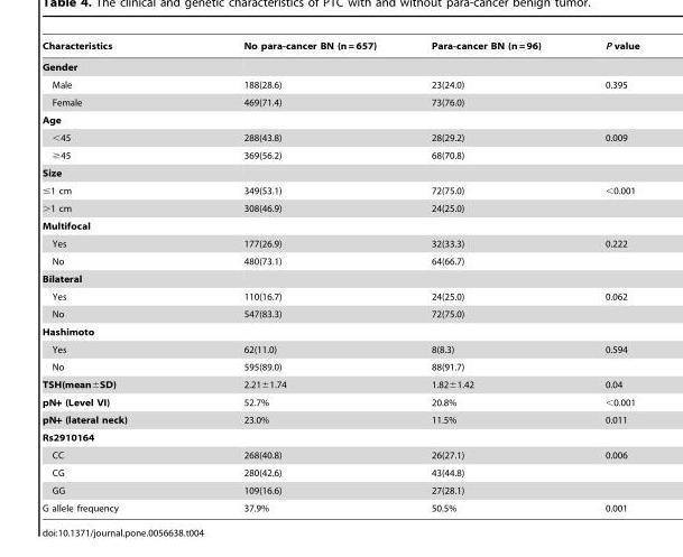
<table><thead><tr><td>Characteristics</td><td>No para-cancer BN (n = 657)</td><td>Para-cancer BN (n = 96)</td><td>P value</td></tr></thead><tbody><tr><td colspan="4">Gender</td></tr><tr><td>Male</td><td>188(28.6)</td><td>23(24.0)</td><td>0.395</td></tr><tr><td>Female</td><td>469(71.4)</td><td>73(76.0)</td><td></td></tr><tr><td colspan="4">Age</td></tr><tr><td>&lt;45</td><td>288(43.8)</td><td>28(29.2)</td><td>0.009</td></tr><tr><td>≥45</td><td>369(56.2)</td><td>68(70.8)</td><td></td></tr><tr><td colspan="4">Size</td></tr><tr><td>≤1 cm</td><td>349(53.1)</td><td>72(75.0)</td><td>&lt;0.001</td></tr><tr><td>&gt;1 cm</td><td>308(46.9)</td><td>24(25.0)</td><td></td></tr><tr><td colspan="4">Multifocal</td></tr><tr><td>Yes</td><td>177(26.9)</td><td>32(33.3)</td><td>0.222</td></tr><tr><td>No</td><td>480(73.1)</td><td>64(66.7)</td><td></td></tr><tr><td colspan="4">Bilateral</td></tr><tr><td>Yes</td><td>110(16.7)</td><td>24(25.0)</td><td>0.062</td></tr><tr><td>No</td><td>547(83.3)</td><td>72(75.0)</td><td></td></tr><tr><td colspan="4">Hashimoto</td></tr><tr><td>Yes</td><td>62(11.0)</td><td>8(8.3)</td><td>0.594</td></tr><tr><td>No</td><td>595(89.0)</td><td>88(91.7)</td><td></td></tr><tr><td>TSH(mean±SD)</td><td>2.21±1.74</td><td>1.82±1.42</td><td>0.04</td></tr><tr><td>pN+ (Level VI)</td><td>52.7%</td><td>20.8%</td><td>&lt;0.001</td></tr><tr><td>pN+ (lateral neck)</td><td>23.0%</td><td>11.5%</td><td>0.011</td></tr><tr><td colspan="4">Rs2910164</td></tr><tr><td>CC</td><td>268(40.8)</td><td>26(27.1)</td><td>0.006</td></tr><tr><td>CG</td><td>280(42.6)</td><td>43(44.8)</td><td></td></tr><tr><td>GG</td><td>109(16.6)</td><td>27(28.1)</td><td></td></tr><tr><td>G allele frequency</td><td>37.9%</td><td>50.5%</td><td>0.001</td></tr></tbody></table>